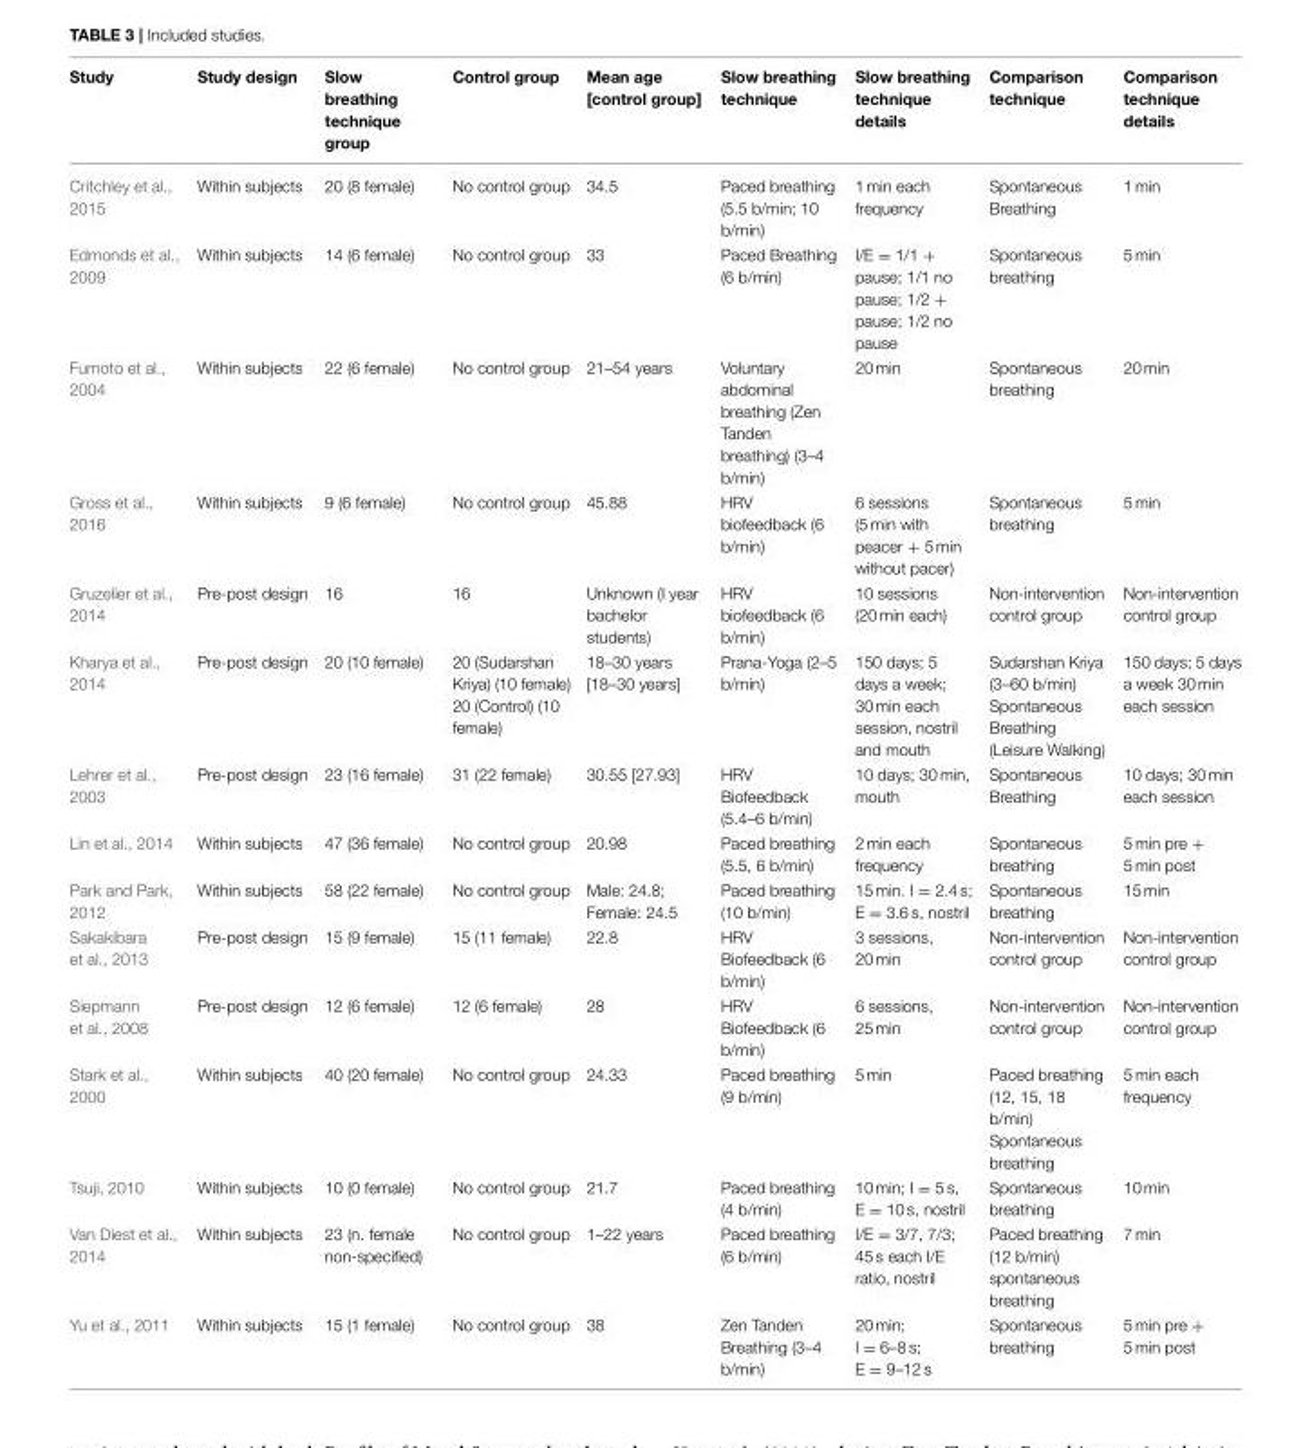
<table><thead><tr><td>Study</td><td>Study design</td><td>Slow breathing technique group</td><td>Control group</td><td>Mean age [control group]</td><td>Slow breathing technique</td><td>Slow breathing technique details</td><td>Comparison technique</td><td>Comparison technique details</td></tr></thead><tbody><tr><td>Critchley et al., 2015</td><td>Within subjects</td><td>20 (8 female)</td><td>No control group</td><td>34.5</td><td>Paced breathing (5.5 b/min; 10 b/min)</td><td>1 min each frequency</td><td>Spontaneous Breathing</td><td>1 min</td></tr><tr><td>Edmonds et al., 2009</td><td>Within subjects</td><td>14 (6 female)</td><td>No control group</td><td>33</td><td>Paced Breathing (6 b/min)</td><td>I/E = 1/1 + pause; 1/1 no pause; 1/2 + pause; 1/2 no pause</td><td>Spontaneous breathing</td><td>5 min</td></tr><tr><td>Fumoto et al., 2004</td><td>Within subjects</td><td>22 (6 female)</td><td>No control group</td><td>21–54 years</td><td>Voluntary abdominal breathing (Zen Tanden breathing) (3–4 b/min)</td><td>20 min</td><td>Spontaneous breathing</td><td>20 min</td></tr><tr><td>Gross et al., 2016</td><td>Within subjects</td><td>9 (6 female)</td><td>No control group</td><td>45.88</td><td>HRV biofeedback (6 b/min)</td><td>6 sessions (5 min with peacer + 5 min without pacer)</td><td>Spontaneous breathing</td><td>5 min</td></tr><tr><td>Gruzelier et al., 2014</td><td>Pre-post design</td><td>16</td><td>16</td><td>Unknown (I year bachelor students)</td><td>HRV biofeedback (6 b/min)</td><td>10 sessions (20 min each)</td><td>Non-intervention control group</td><td>Non-intervention control group</td></tr><tr><td>Kharya et al., 2014</td><td>Pre-post design</td><td>20 (10 female)</td><td>20 (Sudarshan Kriya) (10 female) 20 (Control) (10 female)</td><td>18–30 years [18–30 years]</td><td>Prana-Yoga (2–5 b/min)</td><td>150 days; 5 days a week; 30 min each session, nostril and mouth</td><td>Sudarshan Kriya (3–60 b/min) Spontaneous Breathing (Leisure Walking)</td><td>150 days; 5 days a week 30 min each session</td></tr><tr><td>Lehrer et al., 2003</td><td>Pre-post design</td><td>23 (16 female)</td><td>31 (22 female)</td><td>30.55 [27.93]</td><td>HRV Biofeedback (5.4–6 b/min)</td><td>10 days; 30 min, mouth</td><td>Spontaneous Breathing</td><td>10 days; 30 min each session</td></tr><tr><td>Lin et al., 2014</td><td>Within subjects</td><td>47 (36 female)</td><td>No control group</td><td>20.98</td><td>Paced breathing (5.5, 6 b/min)</td><td>2 min each frequency</td><td>Spontaneous breathing</td><td>5 min pre + 5 min post</td></tr><tr><td>Park and Park, 2012</td><td>Within subjects</td><td>58 (22 female)</td><td>No control group</td><td>Male: 24.8; Female: 24.5</td><td>Paced breathing (10 b/min)</td><td>15 min. I = 2.4 s; E = 3.6 s, nostril</td><td>Spontaneous breathing</td><td>15 min</td></tr><tr><td>Sakakibara et al., 2013</td><td>Pre-post design</td><td>15 (9 female)</td><td>15 (11 female)</td><td>22.8</td><td>HRV Biofeedback (6 b/min)</td><td>3 sessions, 20 min</td><td>Non-intervention control group</td><td>Non-intervention control group</td></tr><tr><td>Siepmann et al., 2008</td><td>Pre-post design</td><td>12 (6 female)</td><td>12 (6 female)</td><td>28</td><td>HRV Biofeedback (6 b/min)</td><td>6 sessions, 25 min</td><td>Non-intervention control group</td><td>Non-intervention control group</td></tr><tr><td>Stark et al., 2000</td><td>Within subjects</td><td>40 (20 female)</td><td>No control group</td><td>24.33</td><td>Paced breathing (9 b/min)</td><td>5 min</td><td>Paced breathing (12, 15, 18 b/min) Spontaneous breathing</td><td>5 min each frequency</td></tr><tr><td>Tsuji, 2010</td><td>Within subjects</td><td>10 (0 female)</td><td>No control group</td><td>21.7</td><td>Paced breathing (4 b/min)</td><td>10 min; I = 5 s, E = 10 s, nostril</td><td>Spontaneous breathing</td><td>10 min</td></tr><tr><td>Van Diest et al., 2014</td><td>Within subjects</td><td>23 (n. female non-specified)</td><td>No control group</td><td>1–22 years</td><td>Paced breathing (6 b/min)</td><td>I/E = 3/7, 7/3; 45 s each I/E ratio, nostril</td><td>Paced breathing (12 b/min) spontaneous breathing</td><td>7 min</td></tr><tr><td>Yu et al., 2011</td><td>Within subjects</td><td>15 (1 female)</td><td>No control group</td><td>38</td><td>Zen Tanden Breathing (3–4 b/min)</td><td>20 min; I = 6–8 s; E = 9–12 s</td><td>Spontaneous breathing</td><td>5 min pre + 5 min post</td></tr></tbody></table>